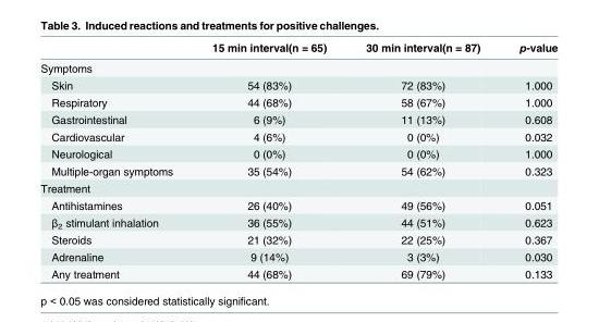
<table><thead><tr><td></td><td>15 min interval(n = 65)</td><td>30 min interval(n = 87)</td><td>p-value</td></tr></thead><tbody><tr><td colspan="4">Symptoms</td></tr><tr><td>Skin</td><td>54 (83%)</td><td>72 (83%)</td><td>1.000</td></tr><tr><td>Respiratory</td><td>44 (68%)</td><td>58 (67%)</td><td>1.000</td></tr><tr><td>Gastrointestinal</td><td>6 (9%)</td><td>11 (13%)</td><td>0.608</td></tr><tr><td>Cardiovascular</td><td>4 (6%)</td><td>0 (0%)</td><td>0.032</td></tr><tr><td>Neurological</td><td>0 (0%)</td><td>0 (0%)</td><td>1.000</td></tr><tr><td>Multiple-organ symptoms</td><td>35 (54%)</td><td>54 (62%)</td><td>0.323</td></tr><tr><td colspan="4">Treatment</td></tr><tr><td>Antihistamines</td><td>26 (40%)</td><td>49 (56%)</td><td>0.051</td></tr><tr><td>β<sub>2</sub> stimulant inhalation</td><td>36 (55%)</td><td>44 (51%)</td><td>0.623</td></tr><tr><td>Steroids</td><td>21 (32%)</td><td>22 (25%)</td><td>0.367</td></tr><tr><td>Adrenaline</td><td>9 (14%)</td><td>3 (3%)</td><td>0.030</td></tr><tr><td>Any treatment</td><td>44 (68%)</td><td>69 (79%)</td><td>0.133</td></tr></tbody></table>